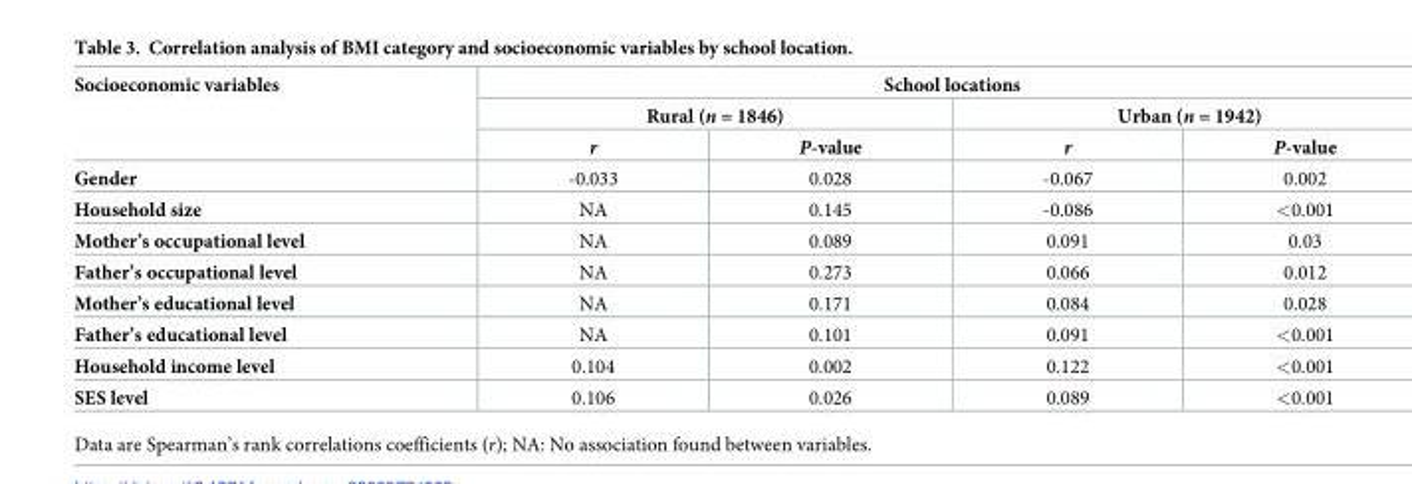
<table><thead><tr><td rowspan="3">Socioeconomic variables</td><td colspan="4">School locations</td></tr><tr><td colspan="2">Rural (n = 1846)</td><td colspan="2">Urban (n = 1942)</td></tr><tr><td>r</td><td>P-value</td><td>r</td><td>P-value</td></tr></thead><tbody><tr><td>Gender</td><td>-0.033</td><td>0.028</td><td>-0.067</td><td>0.002</td></tr><tr><td>Household size</td><td>NA</td><td>0.145</td><td>-0.086</td><td>&lt;0.001</td></tr><tr><td>Mother’s occupational level</td><td>NA</td><td>0.089</td><td>0.091</td><td>0.03</td></tr><tr><td>Father’s occupational level</td><td>NA</td><td>0.273</td><td>0.066</td><td>0.012</td></tr><tr><td>Mother’s educational level</td><td>NA</td><td>0.171</td><td>0.084</td><td>0.028</td></tr><tr><td>Father’s educational level</td><td>NA</td><td>0.101</td><td>0.091</td><td>&lt;0.001</td></tr><tr><td>Household income level</td><td>0.104</td><td>0.002</td><td>0.122</td><td>&lt;0.001</td></tr><tr><td>SES level</td><td>0.106</td><td>0.026</td><td>0.089</td><td>&lt;0.001</td></tr></tbody></table>